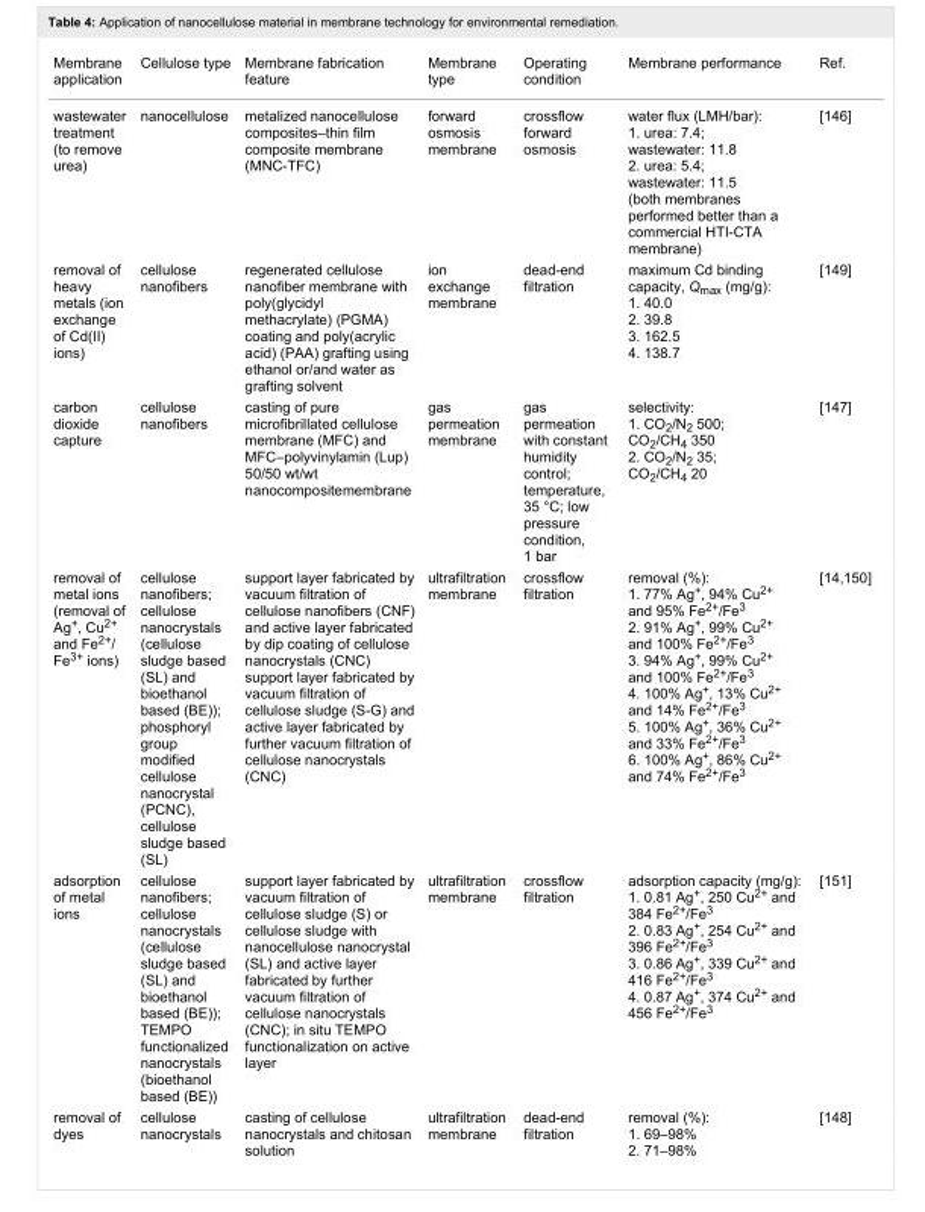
<table><tbody><tr><td>Membrane application</td><td>Cellulose type</td><td>Membrane fabrication feature</td><td>Membrane type</td><td>Operating condition</td><td>Membrane performance</td><td>Ref.</td></tr><tr><td>wastewater treatment (to remove urea)</td><td>nanocellulose</td><td>metalized nanocellulose composites–thin film composite membrane (MNC-TFC)</td><td>forward osmosis membrane</td><td>crossflow forward osmosis</td><td>water flux (LMH/bar): 1. urea: 7.4; wastewater: 11.8 2. urea: 5.4; wastewater: 11.5 (both membranes performed better than a commercial HTI-CTA membrane)</td><td>[146]</td></tr><tr><td>removal of heavy metals (ion exchange of Cd(II) ions)</td><td>cellulose nanofibers</td><td>regenerated cellulose nanofiber membrane with poly(glycidyl methacrylate) (PGMA) coating and poly(acrylic acid) (PAA) grafting using ethanol or/and water as grafting solvent</td><td>ion exchange membrane</td><td>dead-end filtration</td><td>maximum Cd binding capacity, Q<sub>max</sub> (mg/g): 1. 40.0 2. 39.8 3. 162.5 4. 138.7</td><td>[149]</td></tr><tr><td>carbon dioxide capture</td><td>cellulose nanofibers</td><td>casting of pure microfibrillated cellulose membrane (MFC) and MFC–polyvinylamin (Lup) 50/50 wt/wt nanocompositemembrane</td><td>gas permeation membrane</td><td>gas permeation with constant humidity control; temperature, 35 °C; low pressure condition, 1 bar</td><td>selectivity: 1. CO<sub>2</sub>/N<sub>2</sub> 500; CO<sub>2</sub>/CH<sub>4</sub> 350 2. CO<sub>2</sub>/N<sub>2</sub> 35; CO<sub>2</sub>/CH<sub>4</sub> 20</td><td>[147]</td></tr><tr><td>removal of metal ions (removal of Ag<sup>+</sup>, Cu<sup>2+</sup> and Fe<sup>2+</sup>/ Fe<sup>3+</sup> ions)</td><td>cellulose nanofibers; cellulose nanocrystals (cellulose sludge based (SL) and bioethanol based (BE)); phosphoryl group modified cellulose nanocrystal (PCNC), cellulose sludge based (SL)</td><td>support layer fabricated by vacuum filtration of cellulose nanofibers (CNF) and active layer fabricated by dip coating of cellulose nanocrystals (CNC) support layer fabricated by vacuum filtration of cellulose sludge (S-G) and active layer fabricated by further vacuum filtration of cellulose nanocrystals (CNC)</td><td>ultrafiltration membrane</td><td>crossflow filtration</td><td>removal (%): 1. 77% Ag<sup>+</sup>, 94% Cu<sup>2+</sup> and 95% Fe<sup>2+</sup>/Fe<sup>3</sup> 2. 91% Ag<sup>+</sup>, 99% Cu<sup>2+</sup> and 100% Fe<sup>2+</sup>/Fe<sup>3</sup> 3. 94% Ag<sup>+</sup>, 99% Cu<sup>2+</sup> and 100% Fe<sup>2+</sup>/Fe<sup>3</sup> 4. 100% Ag<sup>+</sup>, 13% Cu<sup>2+</sup> and 14% Fe<sup>2+</sup>/Fe<sup>3</sup> 5. 100% Ag<sup>+</sup>, 36% Cu<sup>2+</sup> and 33% Fe<sup>2+</sup>/Fe<sup>3</sup> 6. 100% Ag<sup>+</sup>, 86% Cu<sup>2+</sup> and 74% Fe<sup>2+</sup>/Fe<sup>3</sup></td><td>[14,150]</td></tr><tr><td>adsorption of metal ions</td><td>cellulose nanofibers; cellulose nanocrystals (cellulose sludge based (SL) and bioethanol based (BE)); TEMPO functionalized nanocrystals (bioethanol based (BE))</td><td>support layer fabricated by vacuum filtration of cellulose sludge (S) or cellulose sludge with nanocellulose nanocrystal (SL) and active layer fabricated by further vacuum filtration of cellulose nanocrystals (CNC); in situ TEMPO functionalization on active layer</td><td>ultrafiltration membrane</td><td>crossflow filtration</td><td>adsorption capacity (mg/g): 1. 0.81 Ag<sup>+</sup>, 250 Cu<sup>2+</sup> and 384 Fe<sup>2+</sup>/Fe<sup>3</sup> 2. 0.83 Ag<sup>+</sup>, 254 Cu<sup>2+</sup> and 396 Fe<sup>2+</sup>/Fe<sup>3</sup> 3. 0.86 Ag<sup>+</sup>, 339 Cu<sup>2+</sup> and 416 Fe<sup>2+</sup>/Fe<sup>3</sup> 4. 0.87 Ag<sup>+</sup>, 374 Cu<sup>2+</sup> and 456 Fe<sup>2+</sup>/Fe<sup>3</sup></td><td>[151]</td></tr><tr><td>removal of dyes</td><td>cellulose nanocrystals</td><td>casting of cellulose nanocrystals and chitosan solution</td><td>ultrafiltration membrane</td><td>dead-end filtration</td><td>removal (%): 1. 69–98% 2. 71–98%</td><td>[148]</td></tr></tbody></table>